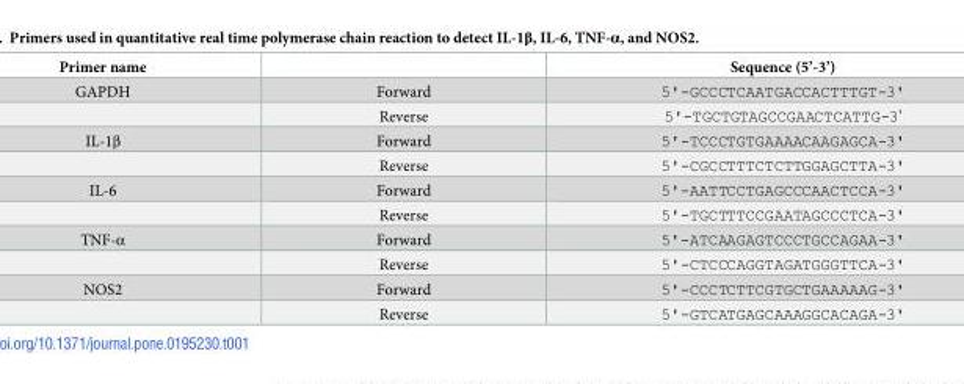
<table><thead><tr><td>Primer name</td><td></td><td>Sequence (5’-3’)</td></tr></thead><tbody><tr><td rowspan="2">GAPDH</td><td>Forward</td><td>5&#x27;-GCCCTCAATGACCACTTTGT-3&#x27;</td></tr><tr><td>Reverse</td><td>5&#x27;-TGCTGTAGCCGAACTCATTG-3’</td></tr><tr><td rowspan="2">IL-1β</td><td>Forward</td><td>5&#x27;-TCCCTGTGAAAACAAGAGCA-3&#x27;</td></tr><tr><td>Reverse</td><td>5&#x27;-CGCCTTTCTCTTGGAGCTTA-3&#x27;</td></tr><tr><td rowspan="2">IL-6</td><td>Forward</td><td>5&#x27;-AATTCCTGAGCCCAACTCCA-3&#x27;</td></tr><tr><td>Reverse</td><td>5&#x27;-TGCTTTCCGAATAGCCCTCA-3&#x27;</td></tr><tr><td rowspan="2">TNF-α</td><td>Forward</td><td>5&#x27;-ATCAAGAGTCCCTGCCAGAA-3&#x27;</td></tr><tr><td>Reverse</td><td>5&#x27;-CTCCCAGGTAGATGGGTTCA-3&#x27;</td></tr><tr><td rowspan="2">NOS2</td><td>Forward</td><td>5&#x27;-CCCTCTTCGTGCTGAAAAAG-3&#x27;</td></tr><tr><td>Reverse</td><td>5&#x27;-GTCATGAGCAAAGGCACAGA-3&#x27;</td></tr></tbody></table>